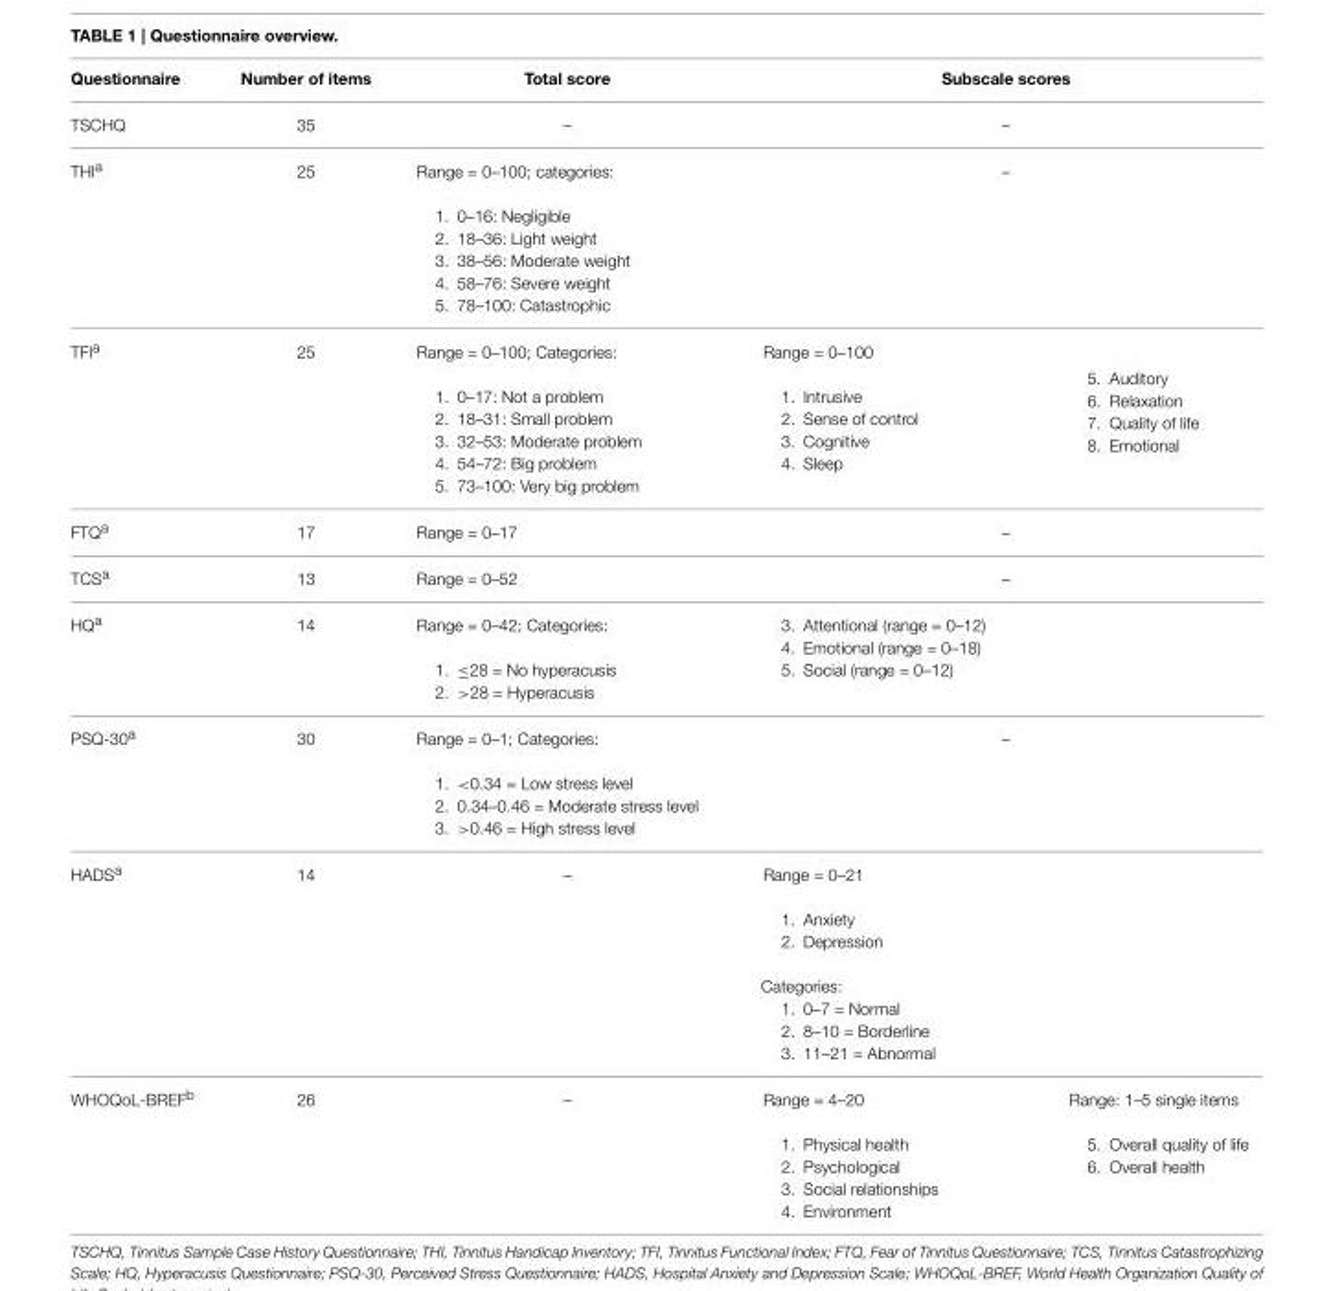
<table><thead><tr><td rowspan="4">Questionnaire TSCHQ THI<sup>a</sup> TFI<sup>a</sup></td><td rowspan="4">Number of items 35 25 25</td><td rowspan="4">Total score – Range = 0–100; categories: 1. 0–16: Negligible 2. 18–36: Light weight 3. 38–56: Moderate weight 4. 58–76: Severe weight 5. 78–100: Catastrophic Range = 0–100; Categories: 1. 0–17: Not a problem 2. 18–31: Small problem 3. 32–53: Moderate problem 4. 54–72: Big problem 5. 73–100: Very big problem</td><td rowspan="3" colspan="2">Subscale scores – –</td></tr><tr></tr><tr></tr><tr><td>Range = 0–100 1. Intrusive 2. Sense of control 3. Cognitive 4. Sleep</td><td>5. Auditory 6. Relaxation 7. Quality of life 8. Emotional</td></tr></thead><tbody><tr><td>FTQ<sup>a</sup></td><td>17</td><td>Range = 0–17</td><td colspan="2">–</td></tr><tr><td>TCS<sup>a</sup></td><td>13</td><td>Range = 0–52</td><td colspan="2">–</td></tr><tr><td>HQ<sup>a</sup></td><td>14</td><td>Range = 0–42; Categories: 1. ≤28 = No hyperacusis 2. &gt;28 = Hyperacusis</td><td colspan="2">3. Attentional (range = 0–12) 4. Emotional (range = 0–18) 5. Social (range = 0–12)</td></tr><tr><td>PSQ-30<sup>a</sup></td><td>30</td><td>Range = 0–1; Categories: 1. &lt;0.34 = Low stress level 2. 0.34–0.46 = Moderate stress level 3. &gt;0.46 = High stress level</td><td colspan="2">–</td></tr><tr><td>HADS<sup>a</sup></td><td>14</td><td>–</td><td colspan="2">Range = 0–21 1. Anxiety 2. Depression Categories: 1. 0–7 = Normal 2. 8–10 = Borderline 3. 11–21 = Abnormal</td></tr><tr><td>WHOQoL-BREF<sup>b</sup></td><td>26</td><td>–</td><td>Range = 4–20 1. Physical health 2. Psychological 3. Social relationships 4. Environment</td><td>Range: 1–5 single items 5. Overall quality of life 6. Overall health</td></tr></tbody></table>